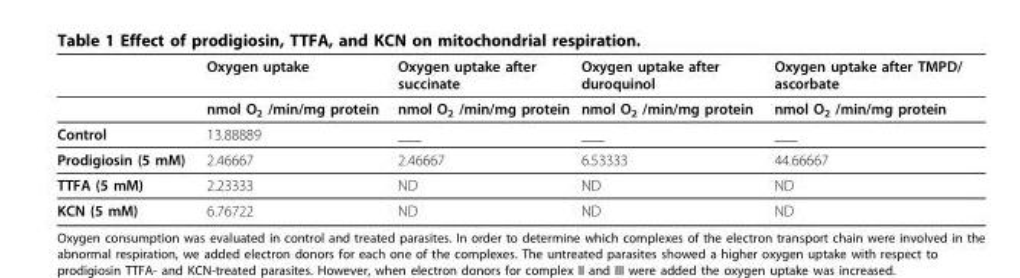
<table><thead><tr><td></td><td>Oxygen uptake</td><td>Oxygen uptake after succinate</td><td>Oxygen uptake after duroquinol</td><td>Oxygen uptake after TMPD/ ascorbate</td></tr></thead><tbody><tr><td></td><td>nmol O<sub>2</sub> /min/mg protein</td><td>nmol O<sub>2</sub> /min/mg protein</td><td>nmol O<sub>2</sub> /min/mg protein</td><td>nmol O<sub>2</sub> /min/mg protein</td></tr><tr><td>Control</td><td>13.88889</td><td>___</td><td>___</td><td>___</td></tr><tr><td>Prodigiosin (5 mM)</td><td>2.46667</td><td>2.46667</td><td>6.53333</td><td>44.66667</td></tr><tr><td>TTFA (5 mM)</td><td>2.23333</td><td>ND</td><td>ND</td><td>ND</td></tr><tr><td>KCN (5 mM)</td><td>6.76722</td><td>ND</td><td>ND</td><td>ND</td></tr></tbody></table>